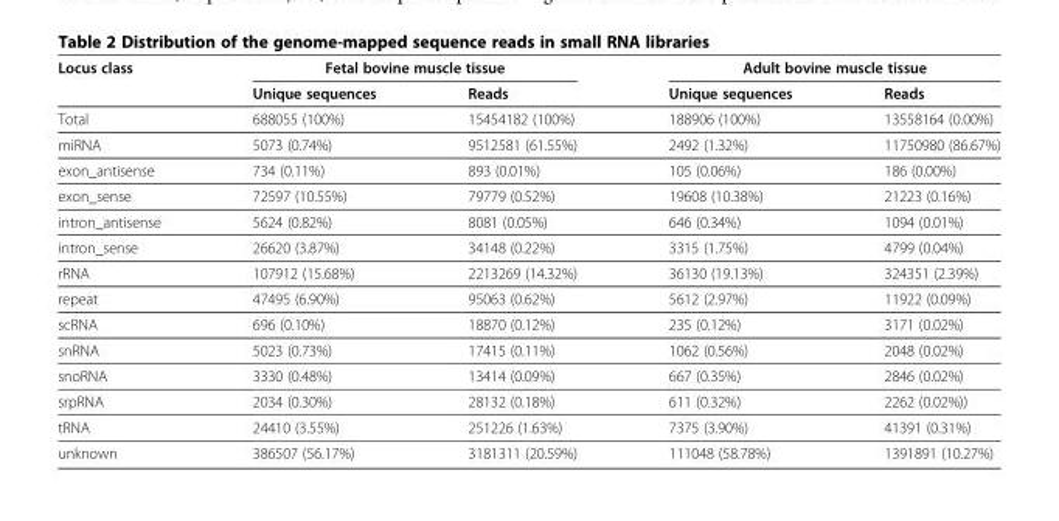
<table><thead><tr><td rowspan="2">Locus class</td><td colspan="2">Fetal bovine muscle tissue</td><td colspan="2">Adult bovine muscle tissue</td></tr><tr><td>Unique sequences</td><td>Reads</td><td>Unique sequences</td><td>Reads</td></tr></thead><tbody><tr><td>Total</td><td>688055 (100%)</td><td>15454182 (100%)</td><td>188906 (100%)</td><td>13558164 (0.00%)</td></tr><tr><td>miRNA</td><td>5073 (0.74%)</td><td>9512581 (61.55%)</td><td>2492 (1.32%)</td><td>11750980 (86.67%)</td></tr><tr><td>exon_antisense</td><td>734 (0.11%)</td><td>893 (0.01%)</td><td>105 (0.06%)</td><td>186 (0.00%)</td></tr><tr><td>exon_sense</td><td>72597 (10.55%)</td><td>79779 (0.52%)</td><td>19608 (10.38%)</td><td>21223 (0.16%)</td></tr><tr><td>intron_antisense</td><td>5624 (0.82%)</td><td>8081 (0.05%)</td><td>646 (0.34%)</td><td>1094 (0.01%)</td></tr><tr><td>intron_sense</td><td>26620 (3.87%)</td><td>34148 (0.22%)</td><td>3315 (1.75%)</td><td>4799 (0.04%)</td></tr><tr><td>rRNA</td><td>107912 (15.68%)</td><td>2213269 (14.32%)</td><td>36130 (19.13%)</td><td>324351 (2.39%)</td></tr><tr><td>repeat</td><td>47495 (6.90%)</td><td>95063 (0.62%)</td><td>5612 (2.97%)</td><td>11922 (0.09%)</td></tr><tr><td>scRNA</td><td>696 (0.10%)</td><td>18870 (0.12%)</td><td>235 (0.12%)</td><td>3171 (0.02%)</td></tr><tr><td>snRNA</td><td>5023 (0.73%)</td><td>17415 (0.11%)</td><td>1062 (0.56%)</td><td>2048 (0.02%)</td></tr><tr><td>snoRNA</td><td>3330 (0.48%)</td><td>13414 (0.09%)</td><td>667 (0.35%)</td><td>2846 (0.02%)</td></tr><tr><td>srpRNA</td><td>2034 (0.30%)</td><td>28132 (0.18%)</td><td>611 (0.32%)</td><td>2262 (0.02%))</td></tr><tr><td>tRNA</td><td>24410 (3.55%)</td><td>251226 (1.63%)</td><td>7375 (3.90%)</td><td>41391 (0.31%)</td></tr><tr><td>unknown</td><td>386507 (56.17%)</td><td>3181311 (20.59%)</td><td>111048 (58.78%)</td><td>1391891 (10.27%)</td></tr></tbody></table>